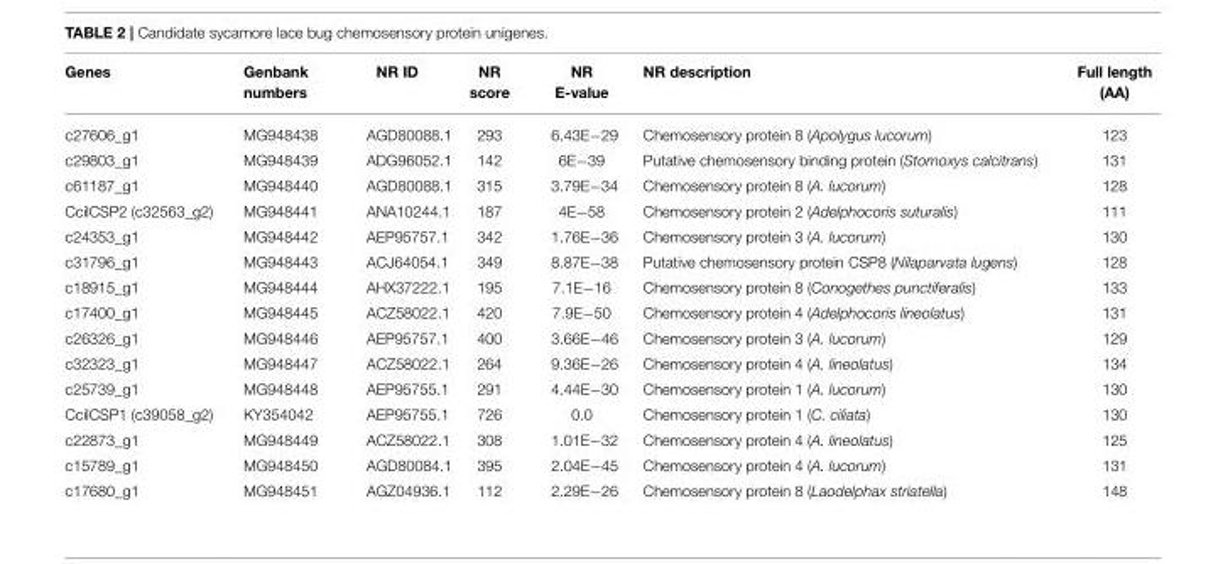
<table><thead><tr><td>Genes</td><td>Genbank numbers</td><td>NR ID</td><td>NR score</td><td>NR E-value</td><td>NR description</td><td>Full length (AA)</td></tr></thead><tbody><tr><td>c27606_g1</td><td>MG948438</td><td>AGD80088.1</td><td>293</td><td>6.43E−29</td><td>Chemosensory protein 8 (Apolygus lucorum)</td><td>123</td></tr><tr><td>c29803_g1</td><td>MG948439</td><td>ADG96052.1</td><td>142</td><td>6E−39</td><td>Putative chemosensory binding protein (Stomoxys calcitrans)</td><td>131</td></tr><tr><td>c61187_g1</td><td>MG948440</td><td>AGD80088.1</td><td>315</td><td>3.79E−34</td><td>Chemosensory protein 8 (A. lucorum)</td><td>128</td></tr><tr><td>CcilCSP2 (c32563_g2)</td><td>MG948441</td><td>ANA10244.1</td><td>187</td><td>4E−58</td><td>Chemosensory protein 2 (Adelphocoris suturalis)</td><td>111</td></tr><tr><td>c24353_g1</td><td>MG948442</td><td>AEP95757.1</td><td>342</td><td>1.76E−36</td><td>Chemosensory protein 3 (A. lucorum)</td><td>130</td></tr><tr><td>c31796_g1</td><td>MG948443</td><td>ACJ64054.1</td><td>349</td><td>8.87E−38</td><td>Putative chemosensory protein CSP8 (Nilaparvata lugens)</td><td>128</td></tr><tr><td>c18915_g1</td><td>MG948444</td><td>AHX37222.1</td><td>195</td><td>7.1E−16</td><td>Chemosensory protein 8 (Conogethes punctiferalis)</td><td>133</td></tr><tr><td>c17400_g1</td><td>MG948445</td><td>ACZ58022.1</td><td>420</td><td>7.9E−50</td><td>Chemosensory protein 4 (Adelphocoris lineolatus)</td><td>131</td></tr><tr><td>c26326_g1</td><td>MG948446</td><td>AEP95757.1</td><td>400</td><td>3.66E−46</td><td>Chemosensory protein 3 (A. lucorum)</td><td>129</td></tr><tr><td>c32323_g1</td><td>MG948447</td><td>ACZ58022.1</td><td>264</td><td>9.36E−26</td><td>Chemosensory protein 4 (A. lineolatus)</td><td>134</td></tr><tr><td>c25739_g1</td><td>MG948448</td><td>AEP95755.1</td><td>291</td><td>4.44E−30</td><td>Chemosensory protein 1 (A. lucorum)</td><td>130</td></tr><tr><td>CcilCSP1 (c39058_g2)</td><td>KY354042</td><td>AEP95755.1</td><td>726</td><td>0.0</td><td>Chemosensory protein 1 (C. ciliata)</td><td>130</td></tr><tr><td>c22873_g1</td><td>MG948449</td><td>ACZ58022.1</td><td>308</td><td>1.01E−32</td><td>Chemosensory protein 4 (A. lineolatus)</td><td>125</td></tr><tr><td>c15789_g1</td><td>MG948450</td><td>AGD80084.1</td><td>395</td><td>2.04E−45</td><td>Chemosensory protein 4 (A. lucorum)</td><td>131</td></tr><tr><td>c17680_g1</td><td>MG948451</td><td>AGZ04936.1</td><td>112</td><td>2.29E−26</td><td>Chemosensory protein 8 (Laodelphax striatella)</td><td>148</td></tr></tbody></table>